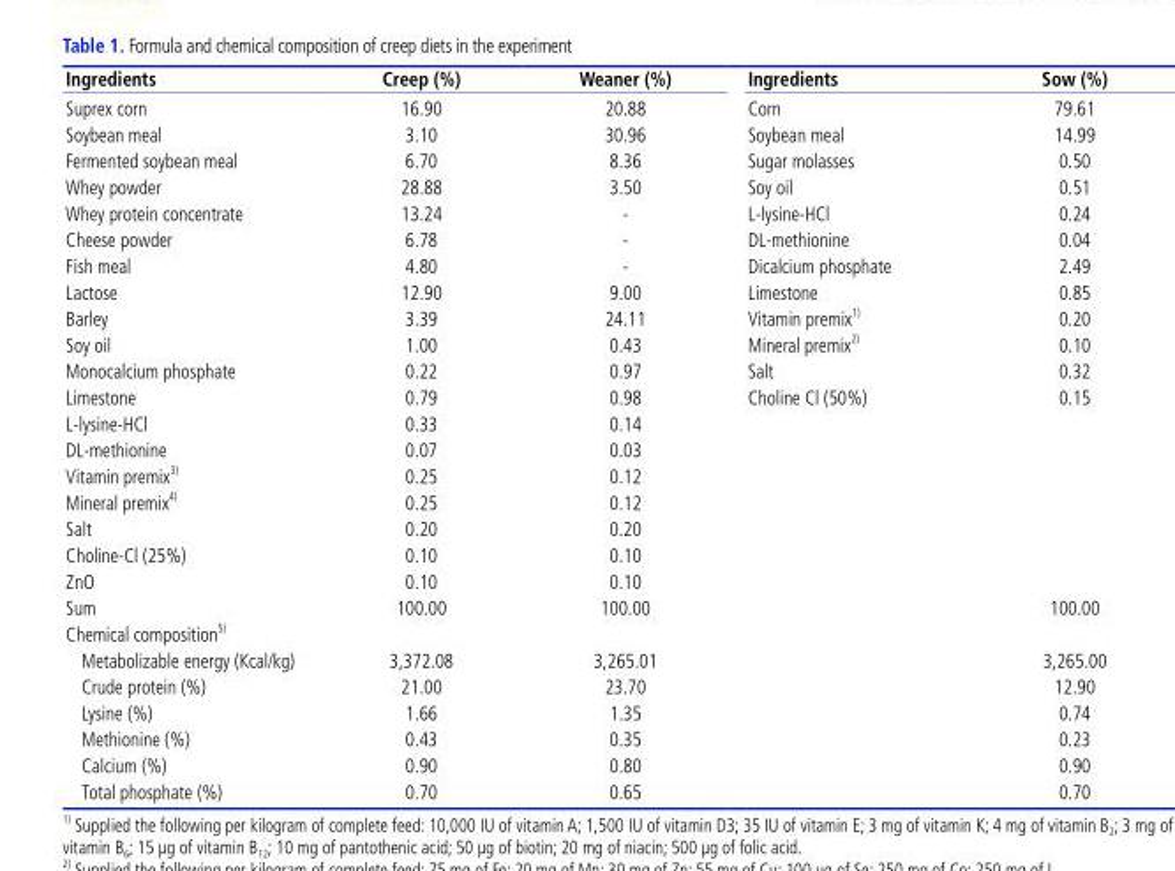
<table><thead><tr><td>Ingredients</td><td>Creep (%)</td><td>Weaner (%)</td><td>Ingredients</td><td>Sow (%)</td></tr></thead><tbody><tr><td>Suprex corn</td><td>16.90</td><td>20.88</td><td>Corn</td><td>79.61</td></tr><tr><td>Soybean meal</td><td>3.10</td><td>30.96</td><td>Soybean meal</td><td>14.99</td></tr><tr><td>Fermented soybean meal</td><td>6.70</td><td>8.36</td><td>Sugar molasses</td><td>0.50</td></tr><tr><td>Whey powder</td><td>28.88</td><td>3.50</td><td>Soy oil</td><td>0.51</td></tr><tr><td>Whey protein concentrate</td><td>13.24</td><td>-</td><td>L-lysine-HCl</td><td>0.24</td></tr><tr><td>Cheese powder</td><td>6.78</td><td>-</td><td>DL-methionine</td><td>0.04</td></tr><tr><td>Fish meal</td><td>4.80</td><td>-</td><td>Dicalcium phosphate</td><td>2.49</td></tr><tr><td>Lactose</td><td>12.90</td><td>9.00</td><td>Limestone</td><td>0.85</td></tr><tr><td>Barley</td><td>3.39</td><td>24.11</td><td>Vitamin premix 1)</td><td>0.20</td></tr><tr><td>Soy oil</td><td>1.00</td><td>0.43</td><td>Mineral premix 2)</td><td>0.10</td></tr><tr><td>Monocalcium phosphate</td><td>0.22</td><td>0.97</td><td>Salt</td><td>0.32</td></tr><tr><td>Limestone</td><td>0.79</td><td>0.98</td><td>Choline Cl (50%)</td><td>0.15</td></tr><tr><td>L-lysine-HCl</td><td>0.33</td><td>0.14</td><td></td><td></td></tr><tr><td>DL-methionine</td><td>0.07</td><td>0.03</td><td></td><td></td></tr><tr><td>Vitamin premix 3)</td><td>0.25</td><td>0.12</td><td></td><td></td></tr><tr><td>Mineral premix 4)</td><td>0.25</td><td>0.12</td><td></td><td></td></tr><tr><td>Salt</td><td>0.20</td><td>0.20</td><td></td><td></td></tr><tr><td>Choline-Cl (25%)</td><td>0.10</td><td>0.10</td><td></td><td></td></tr><tr><td>ZnO</td><td>0.10</td><td>0.10</td><td></td><td></td></tr><tr><td>Sum</td><td>100.00</td><td>100.00</td><td></td><td>100.00</td></tr><tr><td colspan="5">Chemical composition 5)</td></tr><tr><td>Metabolizable energy (Kcal/kg)</td><td>3,372.08</td><td>3,265.01</td><td></td><td>3,265.00</td></tr><tr><td>Crude protein (%)</td><td>21.00</td><td>23.70</td><td></td><td>12.90</td></tr><tr><td>Lysine (%)</td><td>1.66</td><td>1.35</td><td></td><td>0.74</td></tr><tr><td>Methionine (%)</td><td>0.43</td><td>0.35</td><td></td><td>0.23</td></tr><tr><td>Calcium (%)</td><td>0.90</td><td>0.80</td><td></td><td>0.90</td></tr><tr><td>Total phosphate (%)</td><td>0.70</td><td>0.65</td><td></td><td>0.70</td></tr></tbody></table>